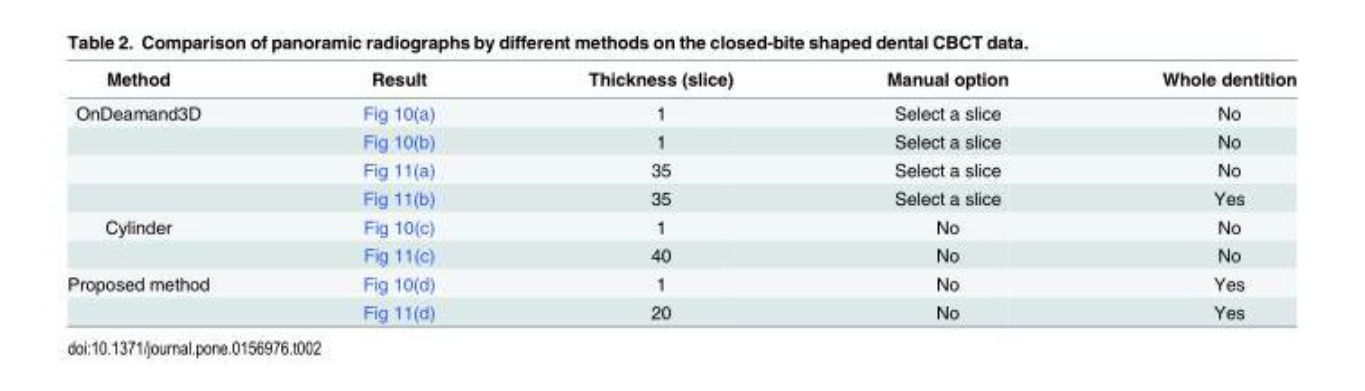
<table><thead><tr><td>Method</td><td>Result</td><td>Thickness (slice)</td><td>Manual option</td><td>Whole dentition</td></tr></thead><tbody><tr><td rowspan="4">OnDeamand3D</td><td>Fig 10(a)</td><td>1</td><td>Select a slice</td><td>No</td></tr><tr><td>Fig 10(b)</td><td>1</td><td>Select a slice</td><td>No</td></tr><tr><td>Fig 11(a)</td><td>35</td><td>Select a slice</td><td>No</td></tr><tr><td>Fig 11(b)</td><td>35</td><td>Select a slice</td><td>Yes</td></tr><tr><td rowspan="2">Cylinder</td><td>Fig 10(c)</td><td>1</td><td>No</td><td>No</td></tr><tr><td>Fig 11(c)</td><td>40</td><td>No</td><td>No</td></tr><tr><td rowspan="2">Proposed method</td><td>Fig 10(d)</td><td>1</td><td>No</td><td>Yes</td></tr><tr><td>Fig 11(d)</td><td>20</td><td>No</td><td>Yes</td></tr></tbody></table>